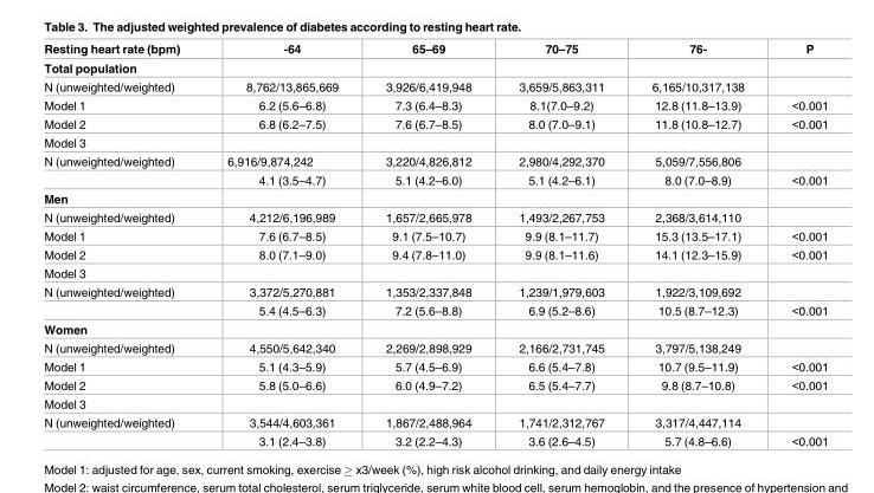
<table><thead><tr><td>Resting heart rate (bpm)</td><td>-64</td><td>65–69</td><td>70–75</td><td>76-</td><td>P</td></tr></thead><tbody><tr><td colspan="6">Total population</td></tr><tr><td>N (unweighted/weighted)</td><td>8,762/13,865,669</td><td>3,926/6,419,948</td><td>3,659/5,863,311</td><td>6,165/10,317,138</td><td></td></tr><tr><td>Model 1</td><td>6.2 (5.6–6.8)</td><td>7.3 (6.4–8.3)</td><td>8.1(7.0–9.2)</td><td>12.8 (11.8–13.9)</td><td>&lt;0.001</td></tr><tr><td>Model 2</td><td>6.8 (6.2–7.5)</td><td>7.6 (6.7–8.5)</td><td>8.0 (7.0–9.1)</td><td>11.8 (10.8–12.7)</td><td>&lt;0.001</td></tr><tr><td colspan="6">Model 3</td></tr><tr><td rowspan="2">N (unweighted/weighted)</td><td>6,916/9,874,242</td><td>3,220/4,826,812</td><td>2,980/4,292,370</td><td>5,059/7,556,806</td><td></td></tr><tr><td>4.1 (3.5–4.7)</td><td>5.1 (4.2–6.0)</td><td>5.1 (4.2–6.1)</td><td>8.0 (7.0–8.9)</td><td>&lt;0.001</td></tr><tr><td colspan="6">Men</td></tr><tr><td>N (unweighted/weighted)</td><td>4,212/6,196,989</td><td>1,657/2,665,978</td><td>1,493/2,267,753</td><td>2,368/3,614,110</td><td></td></tr><tr><td>Model 1</td><td>7.6 (6.7–8.5)</td><td>9.1 (7.5–10.7)</td><td>9.9 (8.1–11.7)</td><td>15.3 (13.5–17.1)</td><td>&lt;0.001</td></tr><tr><td>Model 2</td><td>8.0 (7.1–9.0)</td><td>9.4 (7.8–11.0)</td><td>9.9 (8.1–11.6)</td><td>14.1 (12.3–15.9)</td><td>&lt;0.001</td></tr><tr><td colspan="6">Model 3</td></tr><tr><td rowspan="2">N (unweighted/weighted)</td><td>3,372/5,270,881</td><td>1,353/2,337,848</td><td>1,239/1,979,603</td><td>1,922/3,109,692</td><td></td></tr><tr><td>5.4 (4.5–6.3)</td><td>7.2 (5.6–8.8)</td><td>6.9 (5.2–8.6)</td><td>10.5 (8.7–12.3)</td><td>&lt;0.001</td></tr><tr><td colspan="6">Women</td></tr><tr><td>N (unweighted/weighted)</td><td>4,550/5,642,340</td><td>2,269/2,898,929</td><td>2,166/2,731,745</td><td>3,797/5,138,249</td><td></td></tr><tr><td>Model 1</td><td>5.1 (4.3–5.9)</td><td>5.7 (4.5–6.9)</td><td>6.6 (5.4–7.8)</td><td>10.7 (9.5–11.9)</td><td>&lt;0.001</td></tr><tr><td>Model 2</td><td>5.8 (5.0–6.6)</td><td>6.0 (4.9–7.2)</td><td>6.5 (5.4–7.7)</td><td>9.8 (8.7–10.8)</td><td>&lt;0.001</td></tr><tr><td colspan="6">Model 3</td></tr><tr><td rowspan="2">N (unweighted/weighted)</td><td>3,544/4,603,361</td><td>1,867/2,488,964</td><td>1,741/2,312,767</td><td>3,317/4,447,114</td><td></td></tr><tr><td>3.1 (2.4–3.8)</td><td>3.2 (2.2–4.3)</td><td>3.6 (2.6–4.5)</td><td>5.7 (4.8–6.6)</td><td>&lt;0.001</td></tr></tbody></table>